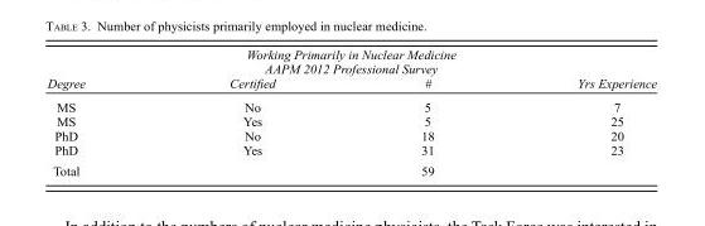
<table><thead><tr><td colspan="4">Working Primarily in Nuclear Medicine AAPM 2012 Professional Survey</td></tr><tr><td>Degree</td><td>Certified</td><td>#</td><td>Yrs Experience</td></tr></thead><tbody><tr><td>MS</td><td>No</td><td>5</td><td>7</td></tr><tr><td>MS</td><td>Yes</td><td>5</td><td>25</td></tr><tr><td>PhD</td><td>No</td><td>18</td><td>20</td></tr><tr><td>PhD</td><td>Yes</td><td>31</td><td>23</td></tr><tr><td>Total</td><td></td><td>59</td><td></td></tr></tbody></table>